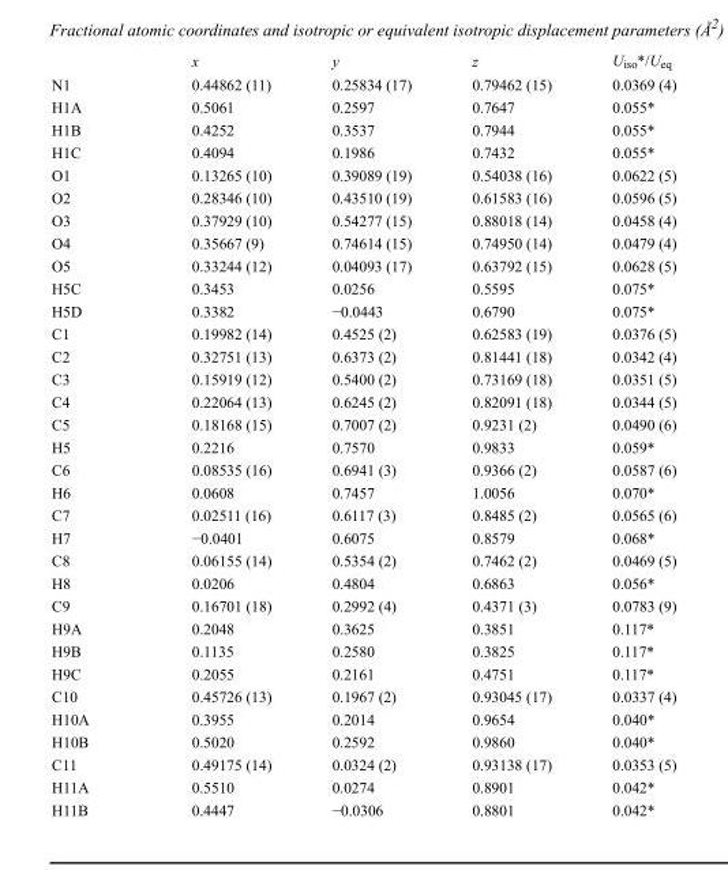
<table><thead><tr><td></td><td>x</td><td>y</td><td>z</td><td>U<sub>iso</sub>*/U<sub>eq</sub></td></tr></thead><tbody><tr><td>N1</td><td>0.44862 (11)</td><td>0.25834 (17)</td><td>0.79462 (15)</td><td>0.0369 (4)</td></tr><tr><td>H1A</td><td>0.5061</td><td>0.2597</td><td>0.7647</td><td>0.055*</td></tr><tr><td>H1B</td><td>0.4252</td><td>0.3537</td><td>0.7944</td><td>0.055*</td></tr><tr><td>H1C</td><td>0.4094</td><td>0.1986</td><td>0.7432</td><td>0.055*</td></tr><tr><td>O1</td><td>0.13265 (10)</td><td>0.39089 (19)</td><td>0.54038 (16)</td><td>0.0622 (5)</td></tr><tr><td>O2</td><td>0.28346 (10)</td><td>0.43510 (19)</td><td>0.61583 (16)</td><td>0.0596 (5)</td></tr><tr><td>O3</td><td>0.37929 (10)</td><td>0.54277 (15)</td><td>0.88018 (14)</td><td>0.0458 (4)</td></tr><tr><td>O4</td><td>0.35667 (9)</td><td>0.74614 (15)</td><td>0.74950 (14)</td><td>0.0479 (4)</td></tr><tr><td>O5</td><td>0.33244 (12)</td><td>0.04093 (17)</td><td>0.63792 (15)</td><td>0.0628 (5)</td></tr><tr><td>H5C</td><td>0.3453</td><td>0.0256</td><td>0.5595</td><td>0.075*</td></tr><tr><td>H5D</td><td>0.3382</td><td>−0.0443</td><td>0.6790</td><td>0.075*</td></tr><tr><td>C1</td><td>0.19982 (14)</td><td>0.4525 (2)</td><td>0.62583 (19)</td><td>0.0376 (5)</td></tr><tr><td>C2</td><td>0.32751 (13)</td><td>0.6373 (2)</td><td>0.81441 (18)</td><td>0.0342 (4)</td></tr><tr><td>C3</td><td>0.15919 (12)</td><td>0.5400 (2)</td><td>0.73169 (18)</td><td>0.0351 (5)</td></tr><tr><td>C4</td><td>0.22064 (13)</td><td>0.6245 (2)</td><td>0.82091 (18)</td><td>0.0344 (5)</td></tr><tr><td>C5</td><td>0.18168 (15)</td><td>0.7007 (2)</td><td>0.9231 (2)</td><td>0.0490 (6)</td></tr><tr><td>H5</td><td>0.2216</td><td>0.7570</td><td>0.9833</td><td>0.059*</td></tr><tr><td>C6</td><td>0.08535 (16)</td><td>0.6941 (3)</td><td>0.9366 (2)</td><td>0.0587 (6)</td></tr><tr><td>H6</td><td>0.0608</td><td>0.7457</td><td>1.0056</td><td>0.070*</td></tr><tr><td>C7</td><td>0.02511 (16)</td><td>0.6117 (3)</td><td>0.8485 (2)</td><td>0.0565 (6)</td></tr><tr><td>H7</td><td>−0.0401</td><td>0.6075</td><td>0.8579</td><td>0.068*</td></tr><tr><td>C8</td><td>0.06155 (14)</td><td>0.5354 (2)</td><td>0.7462 (2)</td><td>0.0469 (5)</td></tr><tr><td>H8</td><td>0.0206</td><td>0.4804</td><td>0.6863</td><td>0.056*</td></tr><tr><td>C9</td><td>0.16701 (18)</td><td>0.2992 (4)</td><td>0.4371 (3)</td><td>0.0783 (9)</td></tr><tr><td>H9A</td><td>0.2048</td><td>0.3625</td><td>0.3851</td><td>0.117*</td></tr><tr><td>H9B</td><td>0.1135</td><td>0.2580</td><td>0.3825</td><td>0.117*</td></tr><tr><td>H9C</td><td>0.2055</td><td>0.2161</td><td>0.4751</td><td>0.117*</td></tr><tr><td>C10</td><td>0.45726 (13)</td><td>0.1967 (2)</td><td>0.93045 (17)</td><td>0.0337 (4)</td></tr><tr><td>H10A</td><td>0.3955</td><td>0.2014</td><td>0.9654</td><td>0.040*</td></tr><tr><td>H10B</td><td>0.5020</td><td>0.2592</td><td>0.9860</td><td>0.040*</td></tr><tr><td>C11</td><td>0.49175 (14)</td><td>0.0324 (2)</td><td>0.93138 (17)</td><td>0.0353 (5)</td></tr><tr><td>H11A</td><td>0.5510</td><td>0.0274</td><td>0.8901</td><td>0.042*</td></tr><tr><td>H11B</td><td>0.4447</td><td>−0.0306</td><td>0.8801</td><td>0.042*</td></tr></tbody></table>